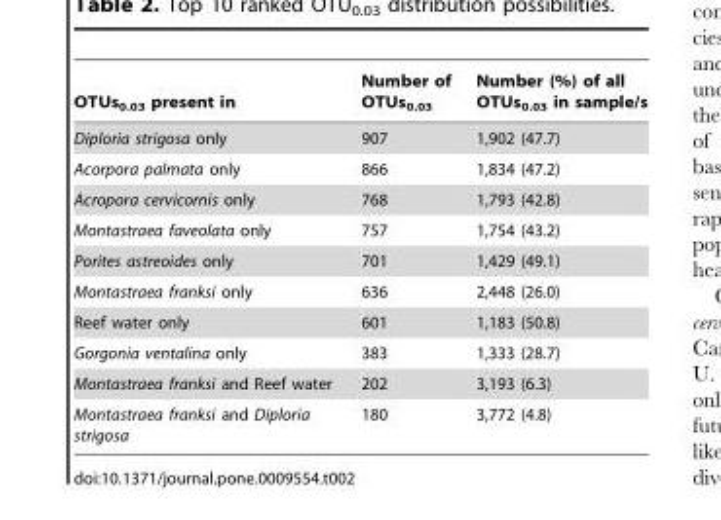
<table><thead><tr><td>OTUs<sub>0.03</sub> present in</td><td>Number of OTUs<sub>0.03</sub></td><td>Number (%) of all OTUs<sub>0.03</sub> in sample/s</td></tr></thead><tbody><tr><td>Diploria strigosa only</td><td>907</td><td>1,902 (47.7)</td></tr><tr><td>Acorpora palmata only</td><td>866</td><td>1,834 (47.2)</td></tr><tr><td>Acropora cervicornis only</td><td>768</td><td>1,793 (42.8)</td></tr><tr><td>Montastraea faveolata only</td><td>757</td><td>1,754 (43.2)</td></tr><tr><td>Porites astreoides only</td><td>701</td><td>1,429 (49.1)</td></tr><tr><td>Montastraea franksi only</td><td>636</td><td>2,448 (26.0)</td></tr><tr><td>Reef water only</td><td>601</td><td>1,183 (50.8)</td></tr><tr><td>Gorgonia ventalina only</td><td>383</td><td>1,333 (28.7)</td></tr><tr><td>Montastraea franksi and Reef water</td><td>202</td><td>3,193 (6.3)</td></tr><tr><td>Montastraea franksi and Diploria strigosa</td><td>180</td><td>3,772 (4.8)</td></tr></tbody></table>